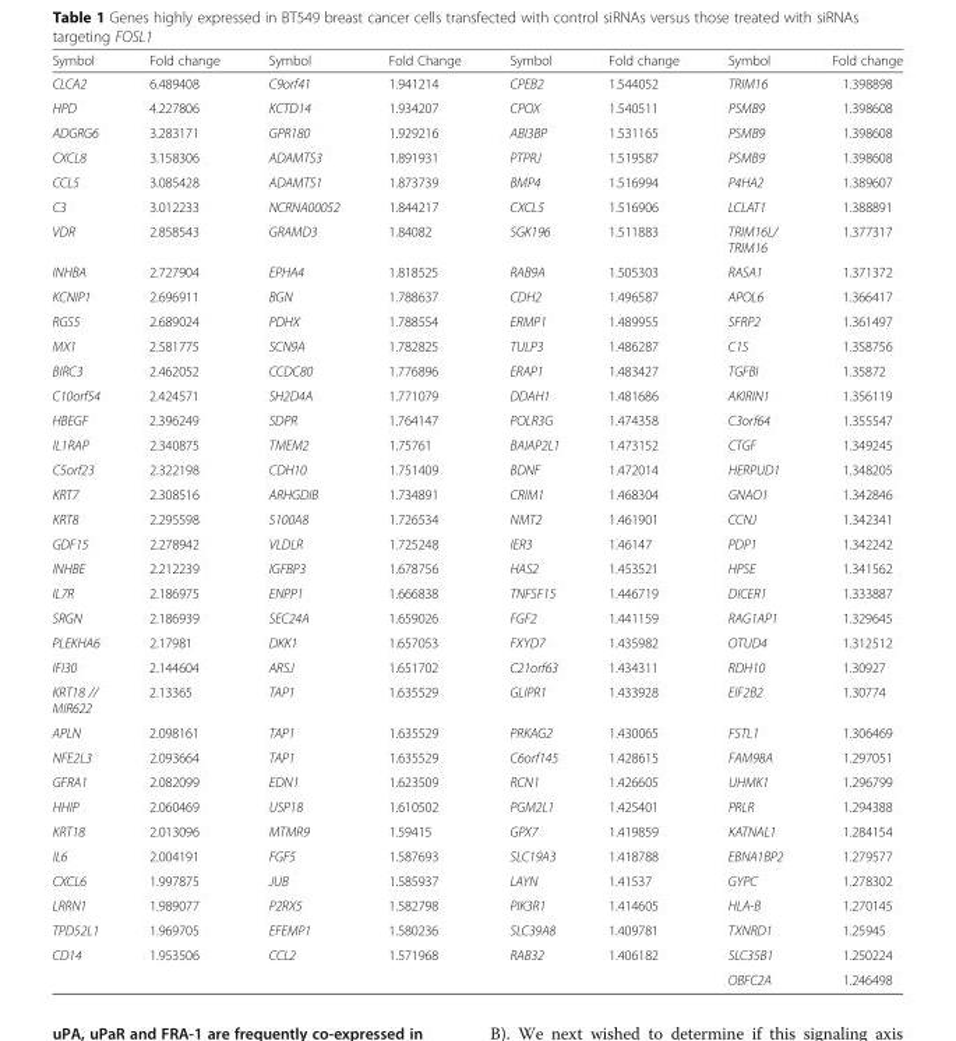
<table><thead><tr><td>Symbol</td><td>Fold change</td><td>Symbol</td><td>Fold Change</td><td>Symbol</td><td>Fold change</td><td>Symbol</td><td>Fold change</td></tr></thead><tbody><tr><td>CLCA2</td><td>6.489408</td><td>C9orf41</td><td>1.941214</td><td>CPEB2</td><td>1.544052</td><td>TRIM16</td><td>1.398898</td></tr><tr><td>HPD</td><td>4.227806</td><td>KCTD14</td><td>1.934207</td><td>CPOX</td><td>1.540511</td><td>PSMB9</td><td>1.398608</td></tr><tr><td>ADGRG6</td><td>3.283171</td><td>GPR180</td><td>1.929216</td><td>ABI3BP</td><td>1.531165</td><td>PSMB9</td><td>1.398608</td></tr><tr><td>CXCL8</td><td>3.158306</td><td>ADAMTS3</td><td>1.891931</td><td>PTPRJ</td><td>1.519587</td><td>PSMB9</td><td>1.398608</td></tr><tr><td>CCL5</td><td>3.085428</td><td>ADAMTS1</td><td>1.873739</td><td>BMP4</td><td>1.516994</td><td>P4HA2</td><td>1.389607</td></tr><tr><td>C3</td><td>3.012233</td><td>NCRNA00052</td><td>1.844217</td><td>CXCL5</td><td>1.516906</td><td>LCLAT1</td><td>1.388891</td></tr><tr><td>VDR</td><td>2.858543</td><td>GRAMD3</td><td>1.84082</td><td>SGK196</td><td>1.511883</td><td>TRIM16L/ TRIM16</td><td>1.377317</td></tr><tr><td>INHBA</td><td>2.727904</td><td>EPHA4</td><td>1.818525</td><td>RAB9A</td><td>1.505303</td><td>RASA1</td><td>1.371372</td></tr><tr><td>KCNIP1</td><td>2.696911</td><td>BGN</td><td>1.788637</td><td>CDH2</td><td>1.496587</td><td>APOL6</td><td>1.366417</td></tr><tr><td>RGS5</td><td>2.689024</td><td>PDHX</td><td>1.788554</td><td>ERMP1</td><td>1.489955</td><td>SFRP2</td><td>1.361497</td></tr><tr><td>MX1</td><td>2.581775</td><td>SCN9A</td><td>1.782825</td><td>TULP3</td><td>1.486287</td><td>C1S</td><td>1.358756</td></tr><tr><td>BIRC3</td><td>2.462052</td><td>CCDC80</td><td>1.776896</td><td>ERAP1</td><td>1.483427</td><td>TGFBI</td><td>1.35872</td></tr><tr><td>C10orf54</td><td>2.424571</td><td>SH2D4A</td><td>1.771079</td><td>DDAH1</td><td>1.481686</td><td>AKIRIN1</td><td>1.356119</td></tr><tr><td>HBEGF</td><td>2.396249</td><td>SDPR</td><td>1.764147</td><td>POLR3G</td><td>1.474358</td><td>C3orf64</td><td>1.355547</td></tr><tr><td>IL1RAP</td><td>2.340875</td><td>TMEM2</td><td>1.75761</td><td>BAIAP2L1</td><td>1.473152</td><td>CTGF</td><td>1.349245</td></tr><tr><td>C5orf23</td><td>2.322198</td><td>CDH10</td><td>1.751409</td><td>BDNF</td><td>1.472014</td><td>HERPUD1</td><td>1.348205</td></tr><tr><td>KRT7</td><td>2.308516</td><td>ARHGDIB</td><td>1.734891</td><td>CRIM1</td><td>1.468304</td><td>GNAO1</td><td>1.342846</td></tr><tr><td>KRT8</td><td>2.295598</td><td>S100A8</td><td>1.726534</td><td>NMT2</td><td>1.461901</td><td>CCNJ</td><td>1.342341</td></tr><tr><td>GDF15</td><td>2.278942</td><td>VLDLR</td><td>1.725248</td><td>IER3</td><td>1.46147</td><td>PDP1</td><td>1.342242</td></tr><tr><td>INHBE</td><td>2.212239</td><td>IGFBP3</td><td>1.678756</td><td>HAS2</td><td>1.453521</td><td>HPSE</td><td>1.341562</td></tr><tr><td>IL7R</td><td>2.186975</td><td>ENPP1</td><td>1.666838</td><td>TNFSF15</td><td>1.446719</td><td>DICER1</td><td>1.333887</td></tr><tr><td>SRGN</td><td>2.186939</td><td>SEC24A</td><td>1.659026</td><td>FGF2</td><td>1.441159</td><td>RAG1AP1</td><td>1.329645</td></tr><tr><td>PLEKHA6</td><td>2.17981</td><td>DKK1</td><td>1.657053</td><td>FXYD7</td><td>1.435982</td><td>OTUD4</td><td>1.312512</td></tr><tr><td>IFI30</td><td>2.144604</td><td>ARSJ</td><td>1.651702</td><td>C21orf63</td><td>1.434311</td><td>RDH10</td><td>1.30927</td></tr><tr><td>KRT18 // MIR622</td><td>2.13365</td><td>TAP1</td><td>1.635529</td><td>GLIPR1</td><td>1.433928</td><td>EIF2B2</td><td>1.30774</td></tr><tr><td>APLN</td><td>2.098161</td><td>TAP1</td><td>1.635529</td><td>PRKAG2</td><td>1.430065</td><td>FSTL1</td><td>1.306469</td></tr><tr><td>NFE2L3</td><td>2.093664</td><td>TAP1</td><td>1.635529</td><td>C6orf145</td><td>1.428615</td><td>FAM98A</td><td>1.297051</td></tr><tr><td>GFRA1</td><td>2.082099</td><td>EDN1</td><td>1.623509</td><td>RCN1</td><td>1.426605</td><td>UHMK1</td><td>1.296799</td></tr><tr><td>HHIP</td><td>2.060469</td><td>USP18</td><td>1.610502</td><td>PGM2L1</td><td>1.425401</td><td>PRLR</td><td>1.294388</td></tr><tr><td>KRT18</td><td>2.013096</td><td>MTMR9</td><td>1.59415</td><td>GPX7</td><td>1.419859</td><td>KATNAL1</td><td>1.284154</td></tr><tr><td>IL6</td><td>2.004191</td><td>FGF5</td><td>1.587693</td><td>SLC19A3</td><td>1.418788</td><td>EBNA1BP2</td><td>1.279577</td></tr><tr><td>CXCL6</td><td>1.997875</td><td>JUB</td><td>1.585937</td><td>LAYN</td><td>1.41537</td><td>GYPC</td><td>1.278302</td></tr><tr><td>LRRN1</td><td>1.989077</td><td>P2RX5</td><td>1.582798</td><td>PIK3R1</td><td>1.414605</td><td>HLA-B</td><td>1.270145</td></tr><tr><td>TPD52L1</td><td>1.969705</td><td>EFEMP1</td><td>1.580236</td><td>SLC39A8</td><td>1.409781</td><td>TXNRD1</td><td>1.25945</td></tr><tr><td rowspan="2">CD14</td><td>1.953506</td><td>CCL2</td><td>1.571968</td><td>RAB32</td><td>1.406182</td><td>SLC35B1</td><td>1.250224</td></tr><tr><td></td><td></td><td></td><td></td><td></td><td>OBFC2A</td><td>1.246498</td></tr></tbody></table>